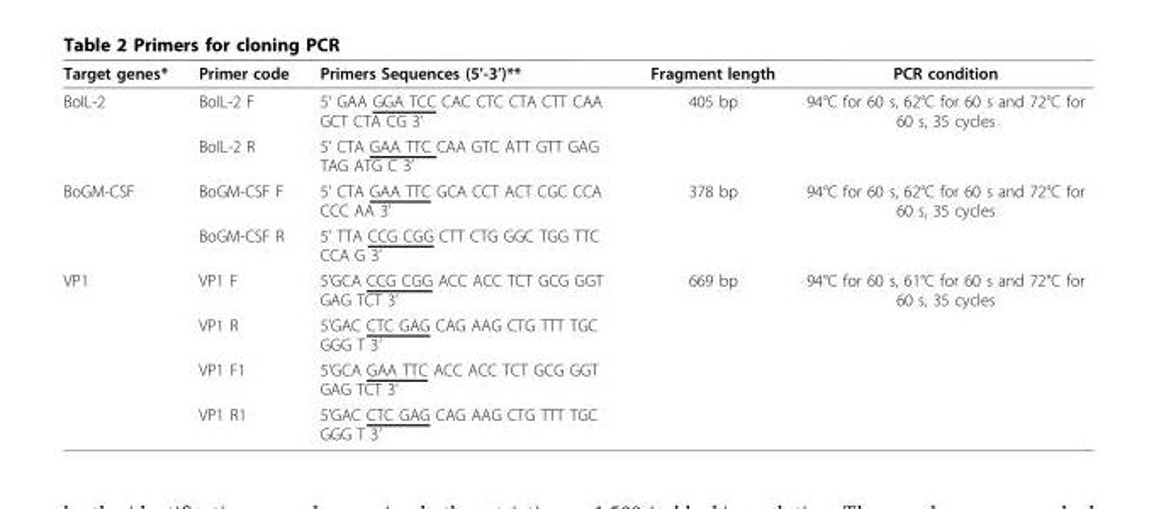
<table><thead><tr><td>Target genes*</td><td>Primer code</td><td>Primers Sequences (5’-3’)**</td><td>Fragment length</td><td>PCR condition</td></tr></thead><tbody><tr><td rowspan="2">BoIL-2</td><td>BoIL-2 F</td><td>5’ GAA GGA TCC CAC CTC CTA CTT CAA GCT CTA CG 3’</td><td>405 bp</td><td>94°C for 60 s, 62°C for 60 s and 72°C for 60 s, 35 cycles</td></tr><tr><td>BoIL-2 R</td><td>5’ CTA GAA TTC CAA GTC ATT GTT GAG TAG ATG C 3’</td><td></td><td></td></tr><tr><td rowspan="2">BoGM-CSF</td><td>BoGM-CSF F</td><td>5’ CTA GAA TTC GCA CCT ACT CGC CCA CCC AA 3’</td><td>378 bp</td><td>94°C for 60 s, 62°C for 60 s and 72°C for 60 s, 35 cycles</td></tr><tr><td>BoGM-CSF R</td><td>5’ TTA CCG CGG CTT CTG GGC TGG TTC CCA G 3’</td><td></td><td></td></tr><tr><td rowspan="4">VP1</td><td>VP1 F</td><td>5’GCA CCG CGG ACC ACC TCT GCG GGT GAG TCT 3’</td><td>669 bp</td><td>94°C for 60 s, 61°C for 60 s and 72°C for 60 s, 35 cycles</td></tr><tr><td>VP1 R</td><td>5’GAC CTC GAG CAG AAG CTG TTT TGC GGG T 3’</td><td></td><td></td></tr><tr><td>VP1 F1</td><td>5’GCA GAA TTC ACC ACC TCT GCG GGT GAG TCT 3’</td><td></td><td></td></tr><tr><td>VP1 R1</td><td>5’GAC CTC GAG CAG AAG CTG TTT TGC GGG T 3’</td><td></td><td></td></tr></tbody></table>